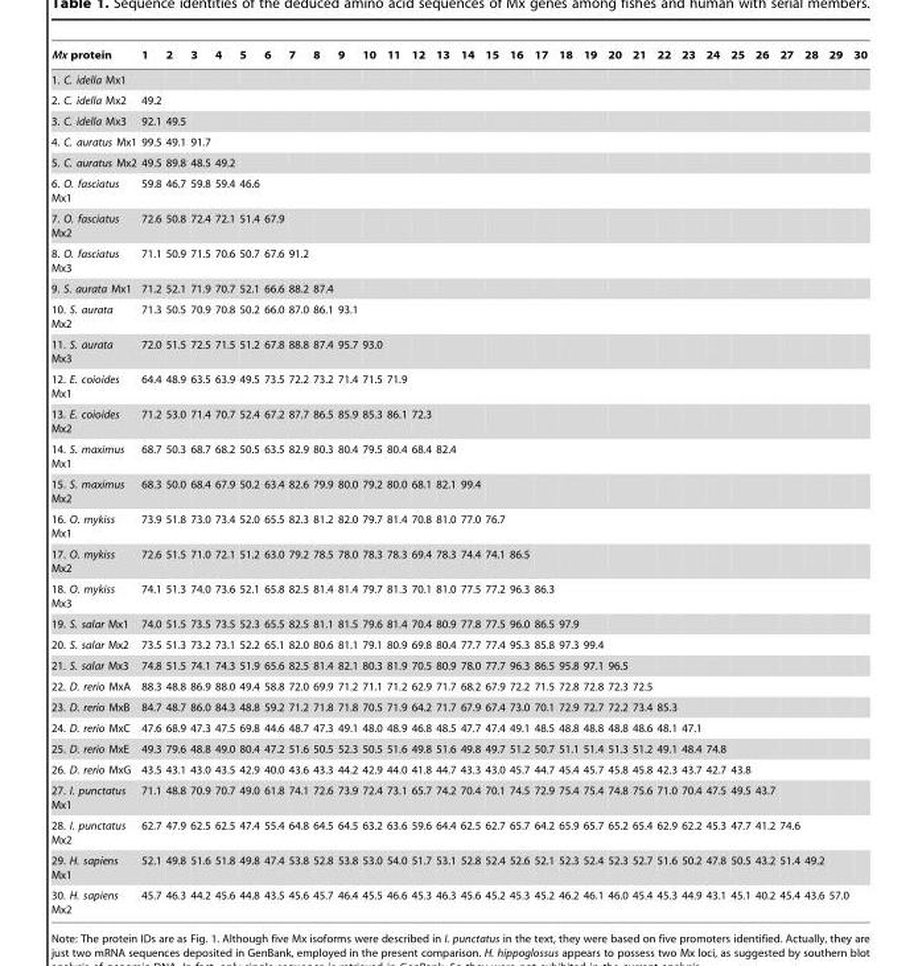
<table><thead><tr><td>Mx protein</td><td>1</td><td>2</td><td>3</td><td>4</td><td>5</td><td>6</td><td>7</td><td>8</td><td>9</td><td>10</td><td>11</td><td>12</td><td>13</td><td>14</td><td>15</td><td>16</td><td>17</td><td>18</td><td>19</td><td>20</td><td>21</td><td>22</td><td>23</td><td>24</td><td>25</td><td>26</td><td>27</td><td>28</td><td>29</td><td>30</td></tr></thead><tbody><tr><td colspan="31">1. C. idella Mx1</td></tr><tr><td>2. C. idella Mx2</td><td>49.2</td><td></td><td></td><td></td><td></td><td></td><td></td><td></td><td></td><td></td><td></td><td></td><td></td><td></td><td></td><td></td><td></td><td></td><td></td><td></td><td></td><td></td><td></td><td></td><td></td><td></td><td></td><td></td><td></td><td></td></tr><tr><td>3. C. idella Mx3</td><td>92.1</td><td>49.5</td><td></td><td></td><td></td><td></td><td></td><td></td><td></td><td></td><td></td><td></td><td></td><td></td><td></td><td></td><td></td><td></td><td></td><td></td><td></td><td></td><td></td><td></td><td></td><td></td><td></td><td></td><td></td><td></td></tr><tr><td>4. C. auratus Mx1</td><td>99.5</td><td>49.1</td><td>91.7</td><td></td><td></td><td></td><td></td><td></td><td></td><td></td><td></td><td></td><td></td><td></td><td></td><td></td><td></td><td></td><td></td><td></td><td></td><td></td><td></td><td></td><td></td><td></td><td></td><td></td><td></td><td></td></tr><tr><td>5. C. auratus Mx2</td><td>49.5</td><td>89.8</td><td>48.5</td><td>49.2</td><td></td><td></td><td></td><td></td><td></td><td></td><td></td><td></td><td></td><td></td><td></td><td></td><td></td><td></td><td></td><td></td><td></td><td></td><td></td><td></td><td></td><td></td><td></td><td></td><td></td><td></td></tr><tr><td>6. O. fasciatus Mx1</td><td>59.8</td><td>46.7</td><td>59.8</td><td>59.4</td><td>46.6</td><td></td><td></td><td></td><td></td><td></td><td></td><td></td><td></td><td></td><td></td><td></td><td></td><td></td><td></td><td></td><td></td><td></td><td></td><td></td><td></td><td></td><td></td><td></td><td></td><td></td></tr><tr><td>7. O. fasciatus Mx2</td><td>72.6</td><td>50.8</td><td>72.4</td><td>72.1</td><td>51.4</td><td>67.9</td><td></td><td></td><td></td><td></td><td></td><td></td><td></td><td></td><td></td><td></td><td></td><td></td><td></td><td></td><td></td><td></td><td></td><td></td><td></td><td></td><td></td><td></td><td></td><td></td></tr><tr><td>8. O. fasciatus Mx3</td><td>71.1</td><td>50.9</td><td>71.5</td><td>70.6</td><td>50.7</td><td>67.6</td><td>91.2</td><td></td><td></td><td></td><td></td><td></td><td></td><td></td><td></td><td></td><td></td><td></td><td></td><td></td><td></td><td></td><td></td><td></td><td></td><td></td><td></td><td></td><td></td><td></td></tr><tr><td>9. S. aurata Mx1</td><td>71.2</td><td>52.1</td><td>71.9</td><td>70.7</td><td>52.1</td><td>66.6</td><td>88.2</td><td>87.4</td><td></td><td></td><td></td><td></td><td></td><td></td><td></td><td></td><td></td><td></td><td></td><td></td><td></td><td></td><td></td><td></td><td></td><td></td><td></td><td></td><td></td><td></td></tr><tr><td>10. S. aurata Mx2</td><td>71.3</td><td>50.5</td><td>70.9</td><td>70.8</td><td>50.2</td><td>66.0</td><td>87.0</td><td>86.1</td><td>93.1</td><td></td><td></td><td></td><td></td><td></td><td></td><td></td><td></td><td></td><td></td><td></td><td></td><td></td><td></td><td></td><td></td><td></td><td></td><td></td><td></td><td></td></tr><tr><td>11. S. aurata Mx3</td><td>72.0</td><td>51.5</td><td>72.5</td><td>71.5</td><td>51.2</td><td>67.8</td><td>88.8</td><td>87.4</td><td>95.7</td><td>93.0</td><td></td><td></td><td></td><td></td><td></td><td></td><td></td><td></td><td></td><td></td><td></td><td></td><td></td><td></td><td></td><td></td><td></td><td></td><td></td><td></td></tr><tr><td>12. E. coioides Mx1</td><td>64.4</td><td>48.9</td><td>63.5</td><td>63.9</td><td>49.5</td><td>73.5</td><td>72.2</td><td>73.2</td><td>71.4</td><td>71.5</td><td>71.9</td><td></td><td></td><td></td><td></td><td></td><td></td><td></td><td></td><td></td><td></td><td></td><td></td><td></td><td></td><td></td><td></td><td></td><td></td><td></td></tr><tr><td>13. E. coioides Mx2</td><td>71.2</td><td>53.0</td><td>71.4</td><td>70.7</td><td>52.4</td><td>67.2</td><td>87.7</td><td>86.5</td><td>85.9</td><td>85.3</td><td>86.1</td><td>72.3</td><td></td><td></td><td></td><td></td><td></td><td></td><td></td><td></td><td></td><td></td><td></td><td></td><td></td><td></td><td></td><td></td><td></td><td></td></tr><tr><td>14. S. maximus Mx1</td><td>68.7</td><td>50.3</td><td>68.7</td><td>68.2</td><td>50.5</td><td>63.5</td><td>82.9</td><td>80.3</td><td>80.4</td><td>79.5</td><td>80.4</td><td>68.4</td><td>82.4</td><td></td><td></td><td></td><td></td><td></td><td></td><td></td><td></td><td></td><td></td><td></td><td></td><td></td><td></td><td></td><td></td><td></td></tr><tr><td>15. S. maximus Mx2</td><td>68.3</td><td>50.0</td><td>68.4</td><td>67.9</td><td>50.2</td><td>63.4</td><td>82.6</td><td>79.9</td><td>80.0</td><td>79.2</td><td>80.0</td><td>68.1</td><td>82.1</td><td>99.4</td><td></td><td></td><td></td><td></td><td></td><td></td><td></td><td></td><td></td><td></td><td></td><td></td><td></td><td></td><td></td><td></td></tr><tr><td>16. O. mykiss Mx1</td><td>73.9</td><td>51.8</td><td>73.0</td><td>73.4</td><td>52.0</td><td>65.5</td><td>82.3</td><td>81.2</td><td>82.0</td><td>79.7</td><td>81.4</td><td>70.8</td><td>81.0</td><td>77.0</td><td>76.7</td><td></td><td></td><td></td><td></td><td></td><td></td><td></td><td></td><td></td><td></td><td></td><td></td><td></td><td></td><td></td></tr><tr><td>17. O. mykiss Mx2</td><td>72.6</td><td>51.5</td><td>71.0</td><td>72.1</td><td>51.2</td><td>63.0</td><td>79.2</td><td>78.5</td><td>78.0</td><td>78.3</td><td>78.3</td><td>69.4</td><td>78.3</td><td>74.4</td><td>74.1</td><td>86.5</td><td></td><td></td><td></td><td></td><td></td><td></td><td></td><td></td><td></td><td></td><td></td><td></td><td></td><td></td></tr><tr><td>18. O. mykiss Mx3</td><td>74.1</td><td>51.3</td><td>74.0</td><td>73.6</td><td>52.1</td><td>65.8</td><td>82.5</td><td>81.4</td><td>81.4</td><td>79.7</td><td>81.3</td><td>70.1</td><td>81.0</td><td>77.5</td><td>77.2</td><td>96.3</td><td>86.3</td><td></td><td></td><td></td><td></td><td></td><td></td><td></td><td></td><td></td><td></td><td></td><td></td><td></td></tr><tr><td>19. S. salar Mx1</td><td>74.0</td><td>51.5</td><td>73.5</td><td>73.5</td><td>52.3</td><td>65.5</td><td>82.5</td><td>81.1</td><td>81.5</td><td>79.6</td><td>81.4</td><td>70.4</td><td>80.9</td><td>77.8</td><td>77.5</td><td>96.0</td><td>86.5</td><td>97.9</td><td></td><td></td><td></td><td></td><td></td><td></td><td></td><td></td><td></td><td></td><td></td><td></td></tr><tr><td>20. S. salar Mx2</td><td>73.5</td><td>51.3</td><td>73.2</td><td>73.1</td><td>52.2</td><td>65.1</td><td>82.0</td><td>80.6</td><td>81.1</td><td>79.1</td><td>80.9</td><td>69.8</td><td>80.4</td><td>77.7</td><td>77.4</td><td>95.3</td><td>85.8</td><td>97.3</td><td>99.4</td><td></td><td></td><td></td><td></td><td></td><td></td><td></td><td></td><td></td><td></td><td></td></tr><tr><td>21. S. salar Mx3</td><td>74.8</td><td>51.5</td><td>74.1</td><td>74.3</td><td>51.9</td><td>65.6</td><td>82.5</td><td>81.4</td><td>82.1</td><td>80.3</td><td>81.9</td><td>70.5</td><td>80.9</td><td>78.0</td><td>77.7</td><td>96.3</td><td>86.5</td><td>95.8</td><td>97.1</td><td>96.5</td><td></td><td></td><td></td><td></td><td></td><td></td><td></td><td></td><td></td><td></td></tr><tr><td>22. D. rerio MxA</td><td>88.3</td><td>48.8</td><td>86.9</td><td>88.0</td><td>49.4</td><td>58.8</td><td>72.0</td><td>69.9</td><td>71.2</td><td>71.1</td><td>71.2</td><td>62.9</td><td>71.7</td><td>68.2</td><td>67.9</td><td>72.2</td><td>71.5</td><td>72.8</td><td>72.8</td><td>72.3</td><td>72.5</td><td></td><td></td><td></td><td></td><td></td><td></td><td></td><td></td><td></td></tr><tr><td>23. D. rerio MxB</td><td>84.7</td><td>48.7</td><td>86.0</td><td>84.3</td><td>48.8</td><td>59.2</td><td>71.2</td><td>71.8</td><td>71.8</td><td>70.5</td><td>71.9</td><td>64.2</td><td>71.7</td><td>67.9</td><td>67.4</td><td>73.0</td><td>70.1</td><td>72.9</td><td>72.7</td><td>72.2</td><td>73.4</td><td>85.3</td><td></td><td></td><td></td><td></td><td></td><td></td><td></td><td></td></tr><tr><td>24. D. rerio MxC</td><td>47.6</td><td>68.9</td><td>47.3</td><td>47.5</td><td>69.8</td><td>44.6</td><td>48.7</td><td>47.3</td><td>49.1</td><td>48.0</td><td>48.9</td><td>46.8</td><td>48.5</td><td>47.7</td><td>47.4</td><td>49.1</td><td>48.5</td><td>48.8</td><td>48.8</td><td>48.8</td><td>48.6</td><td>48.1</td><td>47.1</td><td></td><td></td><td></td><td></td><td></td><td></td><td></td></tr><tr><td>25. D. rerio MxE</td><td>49.3</td><td>79.6</td><td>48.8</td><td>49.0</td><td>80.4</td><td>47.2</td><td>51.6</td><td>50.5</td><td>52.3</td><td>50.5</td><td>51.6</td><td>49.8</td><td>51.6</td><td>49.8</td><td>49.7</td><td>51.2</td><td>50.7</td><td>51.1</td><td>51.4</td><td>51.3</td><td>51.2</td><td>49.1</td><td>48.4</td><td>74.8</td><td></td><td></td><td></td><td></td><td></td><td></td></tr><tr><td>26. D. rerio MxG</td><td>43.5</td><td>43.1</td><td>43.0</td><td>43.5</td><td>42.9</td><td>40.0</td><td>43.6</td><td>43.3</td><td>44.2</td><td>42.9</td><td>44.0</td><td>41.8</td><td>44.7</td><td>43.3</td><td>43.0</td><td>45.7</td><td>44.7</td><td>45.4</td><td>45.7</td><td>45.8</td><td>45.8</td><td>42.3</td><td>43.7</td><td>42.7</td><td>43.8</td><td></td><td></td><td></td><td></td><td></td></tr><tr><td>27. I. punctatus Mx1</td><td>71.1</td><td>48.8</td><td>70.9</td><td>70.7</td><td>49.0</td><td>61.8</td><td>74.1</td><td>72.6</td><td>73.9</td><td>72.4</td><td>73.1</td><td>65.7</td><td>74.2</td><td>70.4</td><td>70.1</td><td>74.5</td><td>72.9</td><td>75.4</td><td>75.4</td><td>74.8</td><td>75.6</td><td>71.0</td><td>70.4</td><td>47.5</td><td>49.5</td><td>43.7</td><td></td><td></td><td></td><td></td></tr><tr><td>28. I. punctatus Mx2</td><td>62.7</td><td>47.9</td><td>62.5</td><td>62.5</td><td>47.4</td><td>55.4</td><td>64.8</td><td>64.5</td><td>64.5</td><td>63.2</td><td>63.6</td><td>59.6</td><td>64.4</td><td>62.5</td><td>62.7</td><td>65.7</td><td>64.2</td><td>65.9</td><td>65.7</td><td>65.2</td><td>65.4</td><td>62.9</td><td>62.2</td><td>45.3</td><td>47.7</td><td>41.2</td><td>74.6</td><td></td><td></td><td></td></tr><tr><td>29. H. sapiens Mx1</td><td>52.1</td><td>49.8</td><td>51.6</td><td>51.8</td><td>49.8</td><td>47.4</td><td>53.8</td><td>52.8</td><td>53.8</td><td>53.0</td><td>54.0</td><td>51.7</td><td>53.1</td><td>52.8</td><td>52.4</td><td>52.6</td><td>52.1</td><td>52.3</td><td>52.4</td><td>52.3</td><td>52.7</td><td>51.6</td><td>50.2</td><td>47.8</td><td>50.5</td><td>43.2</td><td>51.4</td><td>49.2</td><td></td><td></td></tr><tr><td>30. H. sapiens Mx2</td><td>45.7</td><td>46.3</td><td>44.2</td><td>45.6</td><td>44.8</td><td>43.5</td><td>45.6</td><td>45.7</td><td>46.4</td><td>45.5</td><td>46.6</td><td>45.3</td><td>46.3</td><td>45.6</td><td>45.2</td><td>45.3</td><td>45.2</td><td>46.2</td><td>46.1</td><td>46.0</td><td>45.4</td><td>45.3</td><td>44.9</td><td>43.1</td><td>45.1</td><td>40.2</td><td>45.4</td><td>43.6</td><td>57.0</td><td></td></tr></tbody></table>